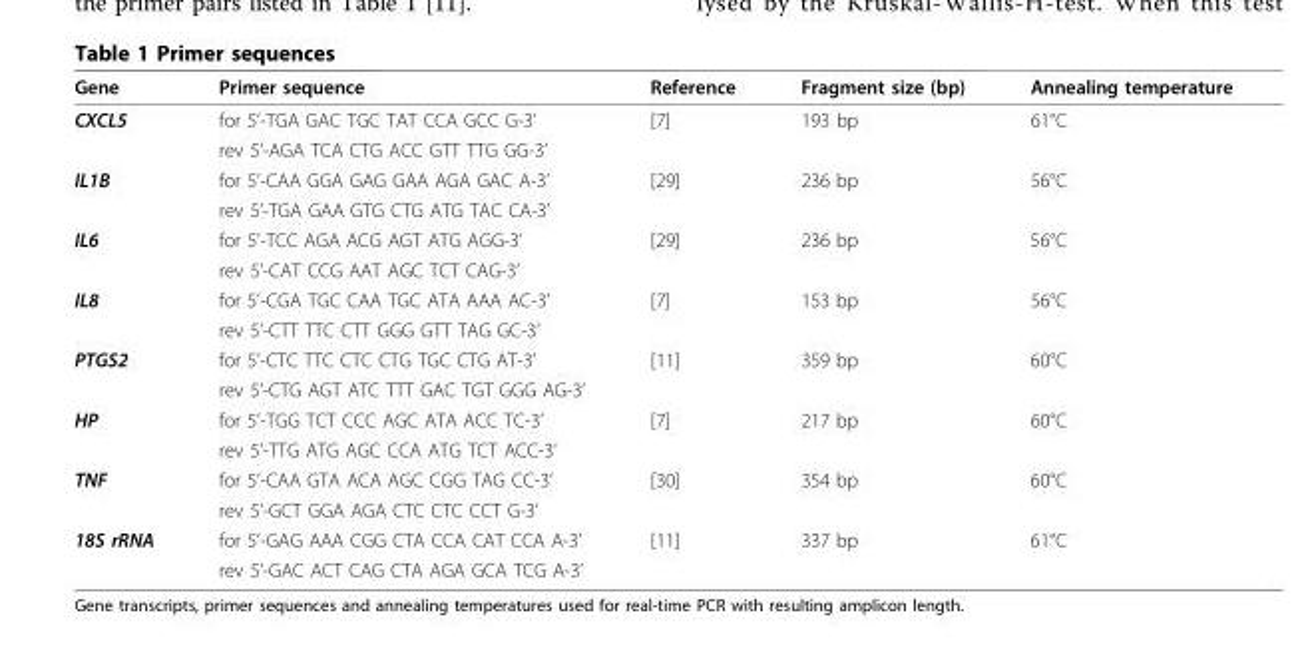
<table><thead><tr><td>Gene</td><td>Primer sequence</td><td>Reference</td><td>Fragment size (bp)</td><td>Annealing temperature</td></tr></thead><tbody><tr><td rowspan="2">CXCL5</td><td>for 5’-TGA GAC TGC TAT CCA GCC G-3’</td><td>[7]</td><td>193 bp</td><td>61°C</td></tr><tr><td>rev 5’-AGA TCA CTG ACC GTT TTG GG-3’</td><td></td><td></td><td></td></tr><tr><td rowspan="2">IL1B</td><td>for 5’-CAA GGA GAG GAA AGA GAC A-3’</td><td>[29]</td><td>236 bp</td><td>56°C</td></tr><tr><td>rev 5’-TGA GAA GTG CTG ATG TAC CA-3’</td><td></td><td></td><td></td></tr><tr><td rowspan="2">IL6</td><td>for 5’-TCC AGA ACG AGT ATG AGG-3’</td><td>[29]</td><td>236 bp</td><td>56°C</td></tr><tr><td>rev 5’-CAT CCG AAT AGC TCT CAG-3’</td><td></td><td></td><td></td></tr><tr><td rowspan="2">IL8</td><td>for 5’-CGA TGC CAA TGC ATA AAA AC-3’</td><td>[7]</td><td>153 bp</td><td>56°C</td></tr><tr><td>rev 5’-CTT TTC CTT GGG GTT TAG GC-3’</td><td></td><td></td><td></td></tr><tr><td rowspan="2">PTGS2</td><td>for 5’-CTC TTC CTC CTG TGC CTG AT-3’</td><td>[11]</td><td>359 bp</td><td>60°C</td></tr><tr><td>rev 5’-CTG AGT ATC TTT GAC TGT GGG AG-3’</td><td></td><td></td><td></td></tr><tr><td rowspan="2">HP</td><td>for 5’-TGG TCT CCC AGC ATA ACC TC-3’</td><td>[7]</td><td>217 bp</td><td>60°C</td></tr><tr><td>rev 5’-TTG ATG AGC CCA ATG TCT ACC-3’</td><td></td><td></td><td></td></tr><tr><td rowspan="2">TNF</td><td>for 5’-CAA GTA ACA AGC CGG TAG CC-3’</td><td>[30]</td><td>354 bp</td><td>60°C</td></tr><tr><td>rev 5’-GCT GGA AGA CTC CTC CCT G-3’</td><td></td><td></td><td></td></tr><tr><td rowspan="2">18S rRNA</td><td>for 5’-GAG AAA CGG CTA CCA CAT CCA A-3’</td><td>[11]</td><td>337 bp</td><td>61°C</td></tr><tr><td>rev 5’-GAC ACT CAG CTA AGA GCA TCG A-3’</td><td></td><td></td><td></td></tr></tbody></table>